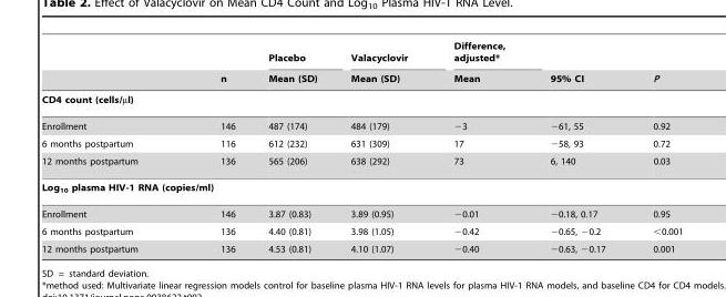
<table><thead><tr><td rowspan="2"></td><td rowspan="2">n</td><td rowspan="2">Placebo Mean (SD)</td><td rowspan="2">Valacyclovir Mean (SD)</td><td rowspan="2">Difference, adjusted* Mean</td><td rowspan="2">95% CI</td><td rowspan="2">P</td></tr><tr></tr></thead><tbody><tr><td colspan="7">CD4 count (cells/µl)</td></tr><tr><td>Enrollment</td><td>146</td><td>487 (174)</td><td>484 (179)</td><td>−3</td><td>−61, 55</td><td>0.92</td></tr><tr><td>6 months postpartum</td><td>116</td><td>612 (232)</td><td>631 (309)</td><td>17</td><td>−58, 93</td><td>0.72</td></tr><tr><td>12 months postpartum</td><td>136</td><td>565 (206)</td><td>638 (292)</td><td>73</td><td>6, 140</td><td>0.03</td></tr><tr><td colspan="7">Log<sub>10</sub> plasma HIV-1 RNA (copies/ml)</td></tr><tr><td>Enrollment</td><td>146</td><td>3.87 (0.83)</td><td>3.89 (0.95)</td><td>−0.01</td><td>−0.18, 0.17</td><td>0.95</td></tr><tr><td>6 months postpartum</td><td>136</td><td>4.40 (0.81)</td><td>3.98 (1.05)</td><td>−0.42</td><td>−0.65, −0.2</td><td>&lt;0.001</td></tr><tr><td>12 months postpartum</td><td>136</td><td>4.53 (0.81)</td><td>4.10 (1.07)</td><td>−0.40</td><td>−0.63, −0.17</td><td>0.001</td></tr></tbody></table>